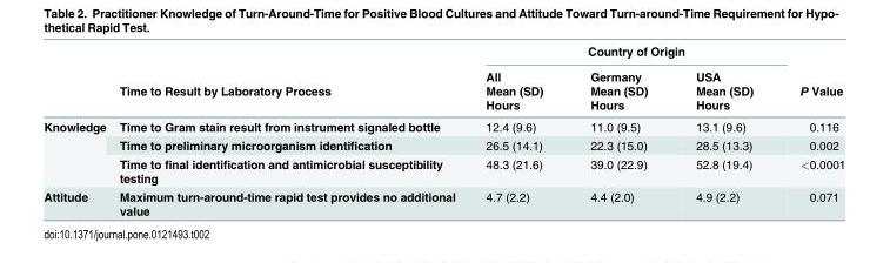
<table><thead><tr><td rowspan="3"></td><td rowspan="3">Time to Result by Laboratory Process</td><td colspan="3">Country of Origin</td><td rowspan="3">P Value</td></tr><tr><td rowspan="2">All Mean (SD) Hours</td><td rowspan="2">Germany Mean (SD) Hours</td><td rowspan="2">USA Mean (SD) Hours</td></tr><tr></tr></thead><tbody><tr><td rowspan="3">Knowledge</td><td>Time to Gram stain result from instrument signaled bottle</td><td>12.4 (9.6)</td><td>11.0 (9.5)</td><td>13.1 (9.6)</td><td>0.116</td></tr><tr><td>Time to preliminary microorganism identification</td><td>26.5 (14.1)</td><td>22.3 (15.0)</td><td>28.5 (13.3)</td><td>0.002</td></tr><tr><td>Time to final identification and antimicrobial susceptibility testing</td><td>48.3 (21.6)</td><td>39.0 (22.9)</td><td>52.8 (19.4)</td><td>&lt;0.0001</td></tr><tr><td>Attitude</td><td>Maximum turn-around-time rapid test provides no additional value</td><td>4.7 (2.2)</td><td>4.4 (2.0)</td><td>4.9 (2.2)</td><td>0.071</td></tr></tbody></table>